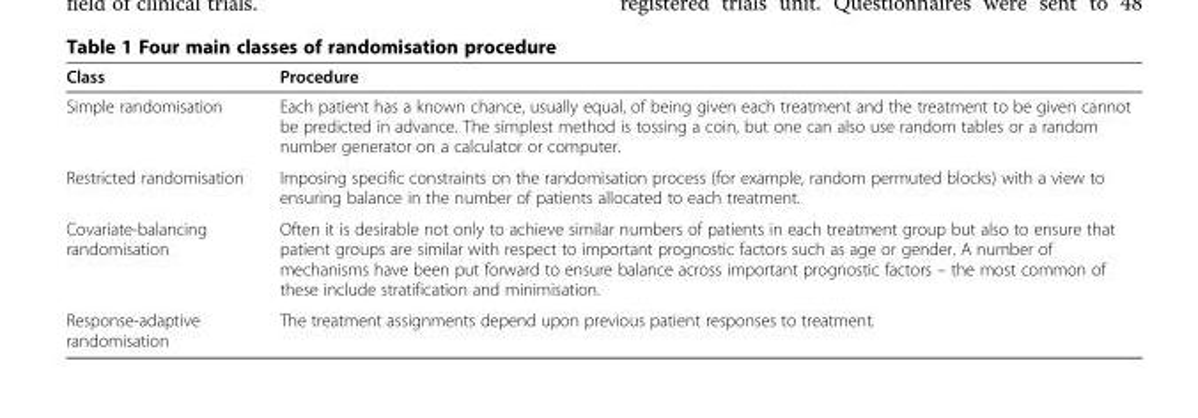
<table><thead><tr><td>Class</td><td>Procedure</td></tr></thead><tbody><tr><td>Simple randomisation</td><td>Each patient has a known chance, usually equal, of being given each treatment and the treatment to be given cannot be predicted in advance. The simplest method is tossing a coin, but one can also use random tables or a random number generator on a calculator or computer.</td></tr><tr><td>Restricted randomisation</td><td>Imposing specific constraints on the randomisation process (for example, random permuted blocks) with a view to ensuring balance in the number of patients allocated to each treatment.</td></tr><tr><td>Covariate-balancing randomisation</td><td>Often it is desirable not only to achieve similar numbers of patients in each treatment group but also to ensure that patient groups are similar with respect to important prognostic factors such as age or gender. A number of mechanisms have been put forward to ensure balance across important prognostic factors – the most common of these include stratification and minimisation.</td></tr><tr><td>Response-adaptive randomisation</td><td>The treatment assignments depend upon previous patient responses to treatment.</td></tr></tbody></table>